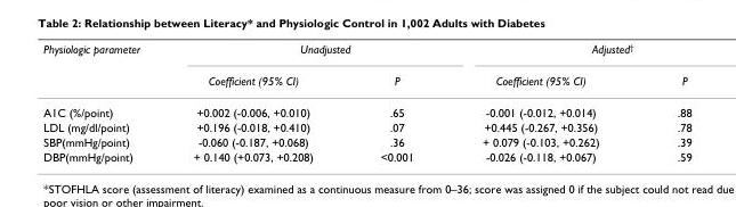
<table><thead><tr><td rowspan="2">Physiologic parameter</td><td colspan="2">Unadjusted</td><td colspan="2">Adjusted<sup>†</sup></td></tr><tr><td>Coefficient (95% CI)</td><td>P</td><td>Coefficient (95% CI)</td><td>P</td></tr></thead><tbody><tr><td>A1C (%/point)</td><td>+0.002 (-0.006, +0.010)</td><td>.65</td><td>-0.001 (-0.012, +0.014)</td><td>.88</td></tr><tr><td>LDL (mg/dl/point)</td><td>+0.196 (-0.018, +0.410)</td><td>.07</td><td>+0.445 (-0.267, +0.356)</td><td>.78</td></tr><tr><td>SBP(mmHg/point)</td><td>-0.060 (-0.187, +0.068)</td><td>.36</td><td>+ 0.079 (-0.103, +0.262)</td><td>.39</td></tr><tr><td>DBP(mmHg/point)</td><td>+ 0.140 (+0.073, +0.208)</td><td>&lt;0.001</td><td>-0.026 (-0.118, +0.067)</td><td>.59</td></tr></tbody></table>